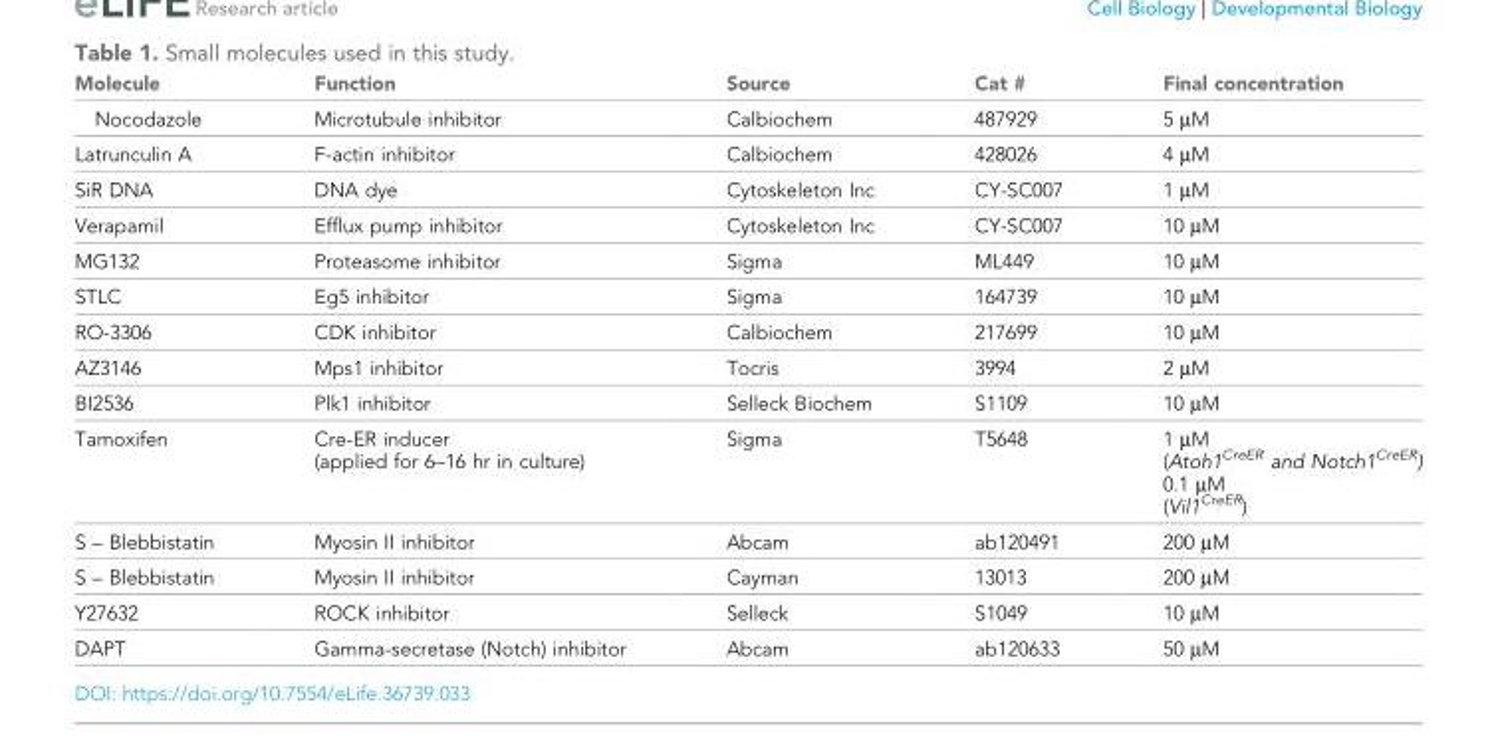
<table><thead><tr><td>Molecule</td><td>Function</td><td>Source</td><td>Cat #</td><td>Final concentration</td></tr></thead><tbody><tr><td>Nocodazole</td><td>Microtubule inhibitor</td><td>Calbiochem</td><td>487929</td><td>5 µM</td></tr><tr><td>Latrunculin A</td><td>F-actin inhibitor</td><td>Calbiochem</td><td>428026</td><td>4 µM</td></tr><tr><td>SiR DNA</td><td>DNA dye</td><td>Cytoskeleton Inc</td><td>CY-SC007</td><td>1 µM</td></tr><tr><td>Verapamil</td><td>Efflux pump inhibitor</td><td>Cytoskeleton Inc</td><td>CY-SC007</td><td>10 µM</td></tr><tr><td>MG132</td><td>Proteasome inhibitor</td><td>Sigma</td><td>ML449</td><td>10 µM</td></tr><tr><td>STLC</td><td>Eg5 inhibitor</td><td>Sigma</td><td>164739</td><td>10 µM</td></tr><tr><td>RO-3306</td><td>CDK inhibitor</td><td>Calbiochem</td><td>217699</td><td>10 µM</td></tr><tr><td>AZ3146</td><td>Mps1 inhibitor</td><td>Tocris</td><td>3994</td><td>2 µM</td></tr><tr><td>BI2536</td><td>Plk1 inhibitor</td><td>Selleck Biochem</td><td>S1109</td><td>10 µM</td></tr><tr><td>Tamoxifen</td><td>Cre-ER inducer (applied for 6–16 hr in culture)</td><td>Sigma</td><td>T5648</td><td>1 µM (Atoh1<sup>CreER</sup> and Notch1<sup>CreER</sup>) 0.1 µM (Vil1<sup>CreER</sup>)</td></tr><tr><td>S – Blebbistatin</td><td>Myosin II inhibitor</td><td>Abcam</td><td>ab120491</td><td>200 µM</td></tr><tr><td>S – Blebbistatin</td><td>Myosin II inhibitor</td><td>Cayman</td><td>13013</td><td>200 µM</td></tr><tr><td>Y27632</td><td>ROCK inhibitor</td><td>Selleck</td><td>S1049</td><td>10 µM</td></tr><tr><td>DAPT</td><td>Gamma-secretase (Notch) inhibitor</td><td>Abcam</td><td>ab120633</td><td>50 µM</td></tr></tbody></table>